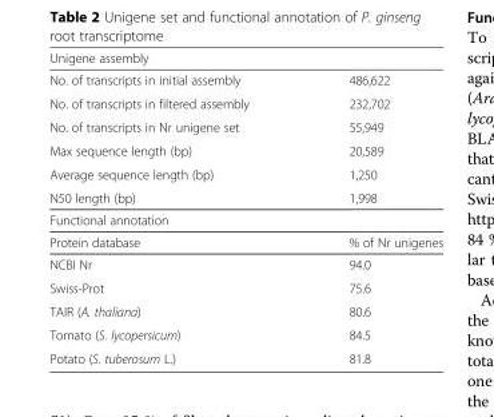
<table><thead><tr><td>Unigene assembly</td><td></td></tr></thead><tbody><tr><td>No. of transcripts in initial assembly</td><td>486,622</td></tr><tr><td>No. of transcripts in filtered assembly</td><td>232,702</td></tr><tr><td>No. of transcripts in Nr unigene set</td><td>55,949</td></tr><tr><td>Max sequence length (bp)</td><td>20,589</td></tr><tr><td>Average sequence length (bp)</td><td>1,250</td></tr><tr><td>N50 length (bp)</td><td>1,998</td></tr><tr><td colspan="2">Functional annotation</td></tr><tr><td>Protein database</td><td>% of Nr unigenes</td></tr><tr><td>NCBI Nr</td><td>94.0</td></tr><tr><td>Swiss-Prot</td><td>75.6</td></tr><tr><td>TAIR (A. thaliana)</td><td>80.6</td></tr><tr><td>Tomato (S. lycopersicum)</td><td>84.5</td></tr><tr><td>Potato (S. tuberosum L.)</td><td>81.8</td></tr></tbody></table>